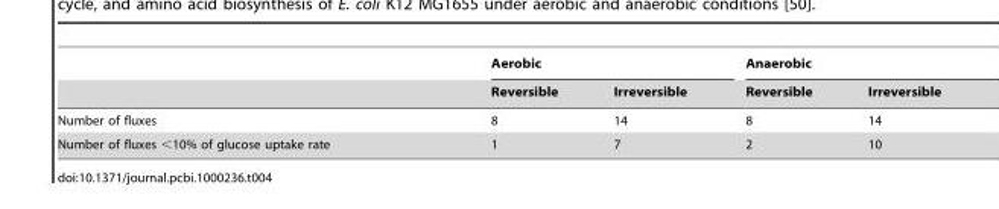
<table><thead><tr><td rowspan="2"></td><td colspan="2">Aerobic</td><td colspan="2">Anaerobic</td></tr><tr><td>Reversible</td><td>Irreversible</td><td>Reversible</td><td>Irreversible</td></tr></thead><tbody><tr><td>Number of fluxes</td><td>8</td><td>14</td><td>8</td><td>14</td></tr><tr><td>Number of fluxes &lt;10% of glucose uptake rate</td><td>1</td><td>7</td><td>2</td><td>10</td></tr></tbody></table>